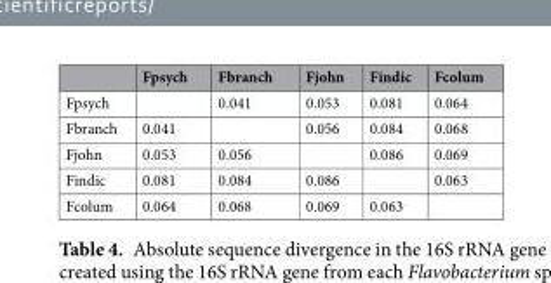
<table><thead><tr><td></td><td>Fpsych</td><td>Fbranch</td><td>Fjohn</td><td>Findic</td><td>Fcolum</td></tr></thead><tbody><tr><td>Fpsych</td><td></td><td>0.041</td><td>0.053</td><td>0.081</td><td>0.064</td></tr><tr><td>Fbranch</td><td>0.041</td><td></td><td>0.056</td><td>0.084</td><td>0.068</td></tr><tr><td>Fjohn</td><td>0.053</td><td>0.056</td><td></td><td>0.086</td><td>0.069</td></tr><tr><td>Findic</td><td>0.081</td><td>0.084</td><td>0.086</td><td></td><td>0.063</td></tr><tr><td>Fcolum</td><td>0.064</td><td>0.068</td><td>0.069</td><td>0.063</td><td></td></tr></tbody></table>